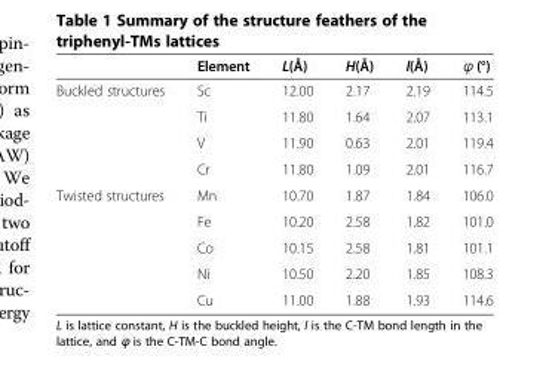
<table><thead><tr><td></td><td>Element</td><td>L(Å)</td><td>H(Å)</td><td>l(Å)</td><td>ϕ (°)</td></tr></thead><tbody><tr><td rowspan="4">Buckled structures</td><td>Sc</td><td>12.00</td><td>2.17</td><td>2.19</td><td>114.5</td></tr><tr><td>Ti</td><td>11.80</td><td>1.64</td><td>2.07</td><td>113.1</td></tr><tr><td>V</td><td>11.90</td><td>0.63</td><td>2.01</td><td>119.4</td></tr><tr><td>Cr</td><td>11.80</td><td>1.09</td><td>2.01</td><td>116.7</td></tr><tr><td rowspan="5">Twisted structures</td><td>Mn</td><td>10.70</td><td>1.87</td><td>1.84</td><td>106.0</td></tr><tr><td>Fe</td><td>10.20</td><td>2.58</td><td>1.82</td><td>101.0</td></tr><tr><td>Co</td><td>10.15</td><td>2.58</td><td>1.81</td><td>101.1</td></tr><tr><td>Ni</td><td>10.50</td><td>2.20</td><td>1.85</td><td>108.3</td></tr><tr><td>Cu</td><td>11.00</td><td>1.88</td><td>1.93</td><td>114.6</td></tr></tbody></table>